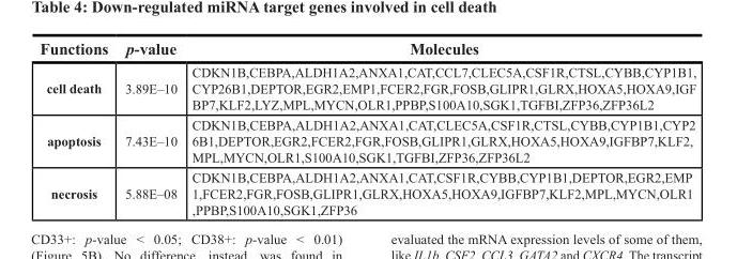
<table><thead><tr><td>Functions</td><td>p-value</td><td>Molecules</td></tr></thead><tbody><tr><td>cell death</td><td>3.89E–10</td><td>CDKN1B,CEBPA,ALDH1A2,ANXA1,CAT,CCL7,CLEC5A,CSF1R,CTSL,CYBB,CYP1B1, CYP26B1,DEPTOR,EGR2,EMP1,FCER2,FGR,FOSB,GLIPR1,GLRX,HOXA5,HOXA9,IGF BP7,KLF2,LYZ,MPL,MYCN,OLR1,PPBP,S100A10,SGK1,TGFBI,ZFP36,ZFP36L2</td></tr><tr><td>apoptosis</td><td>7.43E–10</td><td>CDKN1B,CEBPA,ALDH1A2,ANXA1,CAT,CLEC5A,CSF1R,CTSL,CYBB,CYP1B1,CYP2 6B1,DEPTOR,EGR2,FCER2,FGR,FOSB,GLIPR1,GLRX,HOXA5,HOXA9,IGFBP7,KLF2, MPL,MYCN,OLR1,S100A10,SGK1,TGFBI,ZFP36,ZFP36L2</td></tr><tr><td>necrosis</td><td>5.88E–08</td><td>CDKN1B,CEBPA,ALDH1A2,ANXA1,CAT,CSF1R,CYBB,CYP1B1,DEPTOR,EGR2,EMP 1,FCER2,FGR,FOSB,GLIPR1,GLRX,HOXA5,HOXA9,IGFBP7,KLF2,MPL,MYCN,OLR1 ,PPBP,S100A10,SGK1,ZFP36</td></tr></tbody></table>